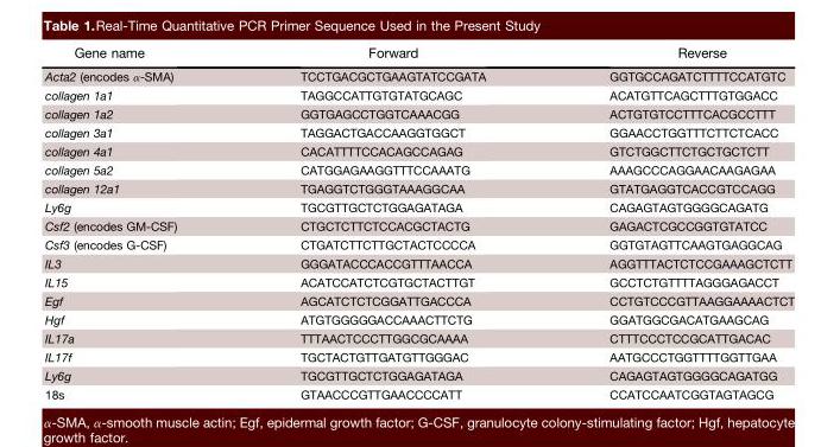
<table><thead><tr><td>Gene name</td><td>Forward</td><td>Reverse</td></tr></thead><tbody><tr><td>Acta2 (encodes α-SMA)</td><td>TCCTGACGCTGAAGTATCCGATA</td><td>GGTGCCAGATCTTTTCCATGTC</td></tr><tr><td>collagen 1a1</td><td>TAGGCCATTGTGTATGCAGC</td><td>ACATGTTCAGCTTTGTGGACC</td></tr><tr><td>collagen 1a2</td><td>GGTGAGCCTGGTCAAACGG</td><td>ACTGTGTCCTTTCACGCCTTT</td></tr><tr><td>collagen 3a1</td><td>TAGGACTGACCAAGGTGGCT</td><td>GGAACCTGGTTTCTTCTCACC</td></tr><tr><td>collagen 4a1</td><td>CACATTTTCCACAGCCAGAG</td><td>GTCTGGCTTCTGCTGCTCTT</td></tr><tr><td>collagen 5a2</td><td>CATGGAGAAGGTTTCCAAATG</td><td>AAAGCCCAGGAACAAGAGAA</td></tr><tr><td>collagen 12a1</td><td>TGAGGTCTGGGTAAAGGCAA</td><td>GTATGAGGTCACCGTCCAGG</td></tr><tr><td>Ly6g</td><td>TGCGTTGCTCTGGAGATAGA</td><td>CAGAGTAGTGGGGCAGATG</td></tr><tr><td>Csf2 (encodes GM-CSF)</td><td>CTGCTCTTCTCCACGCTACTG</td><td>GAGACTCGCCGGTGTATCC</td></tr><tr><td>Csf3 (encodes G-CSF)</td><td>CTGATCTTCTTGCTACTCCCCA</td><td>GGTGTAGTTCAAGTGAGGCAG</td></tr><tr><td>IL3</td><td>GGGATACCCACCGTTTAACCA</td><td>AGGTTTACTCTCCGAAAGCTCTT</td></tr><tr><td>IL15</td><td>ACATCCATCTCGTGCTACTTGT</td><td>GCCTCTGTTTTAGGGAGACCT</td></tr><tr><td>Egf</td><td>AGCATCTCTCGGATTGACCCA</td><td>CCTGTCCCGTTAAGGAAAACTCT</td></tr><tr><td>Hgf</td><td>ATGTGGGGGACCAAACTTCTG</td><td>GGATGGCGACATGAAGCAG</td></tr><tr><td>IL17a</td><td>TTTAACTCCCTTGGCGCAAAA</td><td>CTTTCCCTCCGCATTGACAC</td></tr><tr><td>IL17f</td><td>TGCTACTGTTGATGTTGGGAC</td><td>AATGCCCTGGTTTTGGTTGAA</td></tr><tr><td>Ly6g</td><td>TGCGTTGCTCTGGAGATAGA</td><td>CAGAGTAGTGGGGCAGATGG</td></tr><tr><td>18s</td><td>GTAACCCGTTGAACCCCATT</td><td>CCATCCAATCGGTAGTAGCG</td></tr></tbody></table>